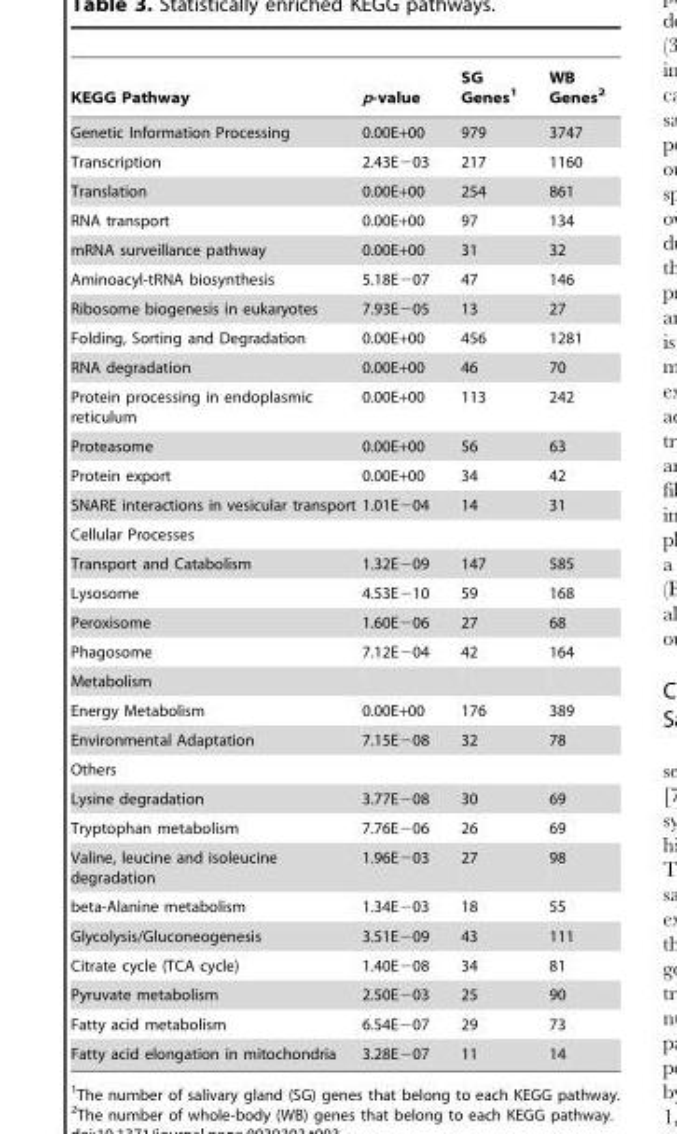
<table><thead><tr><td>KEGG Pathway</td><td>p-value</td><td>SG Genes<sup>1</sup></td><td>WB Genes<sup>2</sup></td></tr></thead><tbody><tr><td>Genetic Information Processing</td><td>0.00E+00</td><td>979</td><td>3747</td></tr><tr><td>Transcription</td><td>2.43E−03</td><td>217</td><td>1160</td></tr><tr><td>Translation</td><td>0.00E+00</td><td>254</td><td>861</td></tr><tr><td>RNA transport</td><td>0.00E+00</td><td>97</td><td>134</td></tr><tr><td>mRNA surveillance pathway</td><td>0.00E+00</td><td>31</td><td>32</td></tr><tr><td>Aminoacyl-tRNA biosynthesis</td><td>5.18E−07</td><td>47</td><td>146</td></tr><tr><td>Ribosome biogenesis in eukaryotes</td><td>7.93E−05</td><td>13</td><td>27</td></tr><tr><td>Folding, Sorting and Degradation</td><td>0.00E+00</td><td>456</td><td>1281</td></tr><tr><td>RNA degradation</td><td>0.00E+00</td><td>46</td><td>70</td></tr><tr><td>Protein processing in endoplasmic reticulum</td><td>0.00E+00</td><td>113</td><td>242</td></tr><tr><td>Proteasome</td><td>0.00E+00</td><td>56</td><td>63</td></tr><tr><td>Protein export</td><td>0.00E+00</td><td>34</td><td>42</td></tr><tr><td>SNARE interactions in vesicular transport</td><td>1.01E−04</td><td>14</td><td>31</td></tr><tr><td colspan="4">Cellular Processes</td></tr><tr><td>Transport and Catabolism</td><td>1.32E−09</td><td>147</td><td>585</td></tr><tr><td>Lysosome</td><td>4.53E−10</td><td>59</td><td>168</td></tr><tr><td>Peroxisome</td><td>1.60E−06</td><td>27</td><td>68</td></tr><tr><td>Phagosome</td><td>7.12E−04</td><td>42</td><td>164</td></tr><tr><td colspan="4">Metabolism</td></tr><tr><td>Energy Metabolism</td><td>0.00E+00</td><td>176</td><td>389</td></tr><tr><td>Environmental Adaptation</td><td>7.15E−08</td><td>32</td><td>78</td></tr><tr><td colspan="4">Others</td></tr><tr><td>Lysine degradation</td><td>3.77E−08</td><td>30</td><td>69</td></tr><tr><td>Tryptophan metabolism</td><td>7.76E−06</td><td>26</td><td>69</td></tr><tr><td>Valine, leucine and isoleucine degradation</td><td>1.96E−03</td><td>27</td><td>98</td></tr><tr><td>beta-Alanine metabolism</td><td>1.34E−03</td><td>18</td><td>55</td></tr><tr><td>Glycolysis/Gluconeogenesis</td><td>3.51E−09</td><td>43</td><td>111</td></tr><tr><td>Citrate cycle (TCA cycle)</td><td>1.40E−08</td><td>34</td><td>81</td></tr><tr><td>Pyruvate metabolism</td><td>2.50E−03</td><td>25</td><td>90</td></tr><tr><td>Fatty acid metabolism</td><td>6.54E−07</td><td>29</td><td>73</td></tr><tr><td>Fatty acid elongation in mitochondria</td><td>3.28E−07</td><td>11</td><td>14</td></tr></tbody></table>